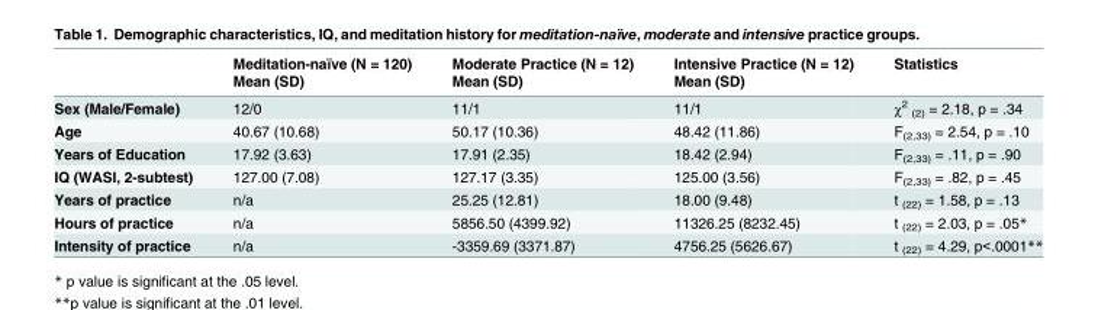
<table><thead><tr><td rowspan="2"></td><td rowspan="2">Meditation-naïve (N = 120) Mean (SD)</td><td rowspan="2">Moderate Practice (N = 12) Mean (SD)</td><td rowspan="2">Intensive Practice (N = 12) Mean (SD)</td><td rowspan="2">Statistics</td></tr><tr></tr></thead><tbody><tr><td>Sex (Male/Female)</td><td>12/0</td><td>11/1</td><td>11/1</td><td>χ<sup>2</sup> <sub>(2)</sub> = 2.18, p = .34</td></tr><tr><td>Age</td><td>40.67 (10.68)</td><td>50.17 (10.36)</td><td>48.42 (11.86)</td><td>F<sub>(2,33)</sub> = 2.54, p = .10</td></tr><tr><td>Years of Education</td><td>17.92 (3.63)</td><td>17.91 (2.35)</td><td>18.42 (2.94)</td><td>F<sub>(2,33)</sub> = .11, p = .90</td></tr><tr><td>IQ (WASI, 2-subtest)</td><td>127.00 (7.08)</td><td>127.17 (3.35)</td><td>125.00 (3.56)</td><td>F<sub>(2,33)</sub> = .82, p = .45</td></tr><tr><td>Years of practice</td><td>n/a</td><td>25.25 (12.81)</td><td>18.00 (9.48)</td><td>t <sub>(22)</sub> = 1.58, p = .13</td></tr><tr><td>Hours of practice</td><td>n/a</td><td>5856.50 (4399.92)</td><td>11326.25 (8232.45)</td><td>t <sub>(22)</sub> = 2.03, p = .05*</td></tr><tr><td>Intensity of practice</td><td>n/a</td><td>-3359.69 (3371.87)</td><td>4756.25 (5626.67)</td><td>t <sub>(22)</sub> = 4.29, p&lt;.0001**</td></tr></tbody></table>